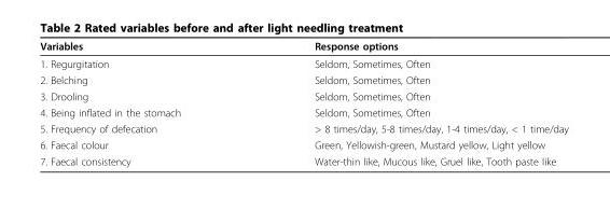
<table><thead><tr><td>Variables</td><td>Response options</td></tr></thead><tbody><tr><td>1. Regurgitation</td><td>Seldom, Sometimes, Often</td></tr><tr><td>2. Belching</td><td>Seldom, Sometimes, Often</td></tr><tr><td>3. Drooling</td><td>Seldom, Sometimes, Often</td></tr><tr><td>4. Being inflated in the stomach</td><td>Seldom, Sometimes, Often</td></tr><tr><td>5. Frequency of defecation</td><td>&gt; 8 times/day, 5-8 times/day, 1-4 times/day, &lt; 1 time/day</td></tr><tr><td>6. Faecal colour</td><td>Green, Yellowish-green, Mustard yellow, Light yellow</td></tr><tr><td>7. Faecal consistency</td><td>Water-thin like, Mucous like, Gruel like, Tooth paste like</td></tr></tbody></table>